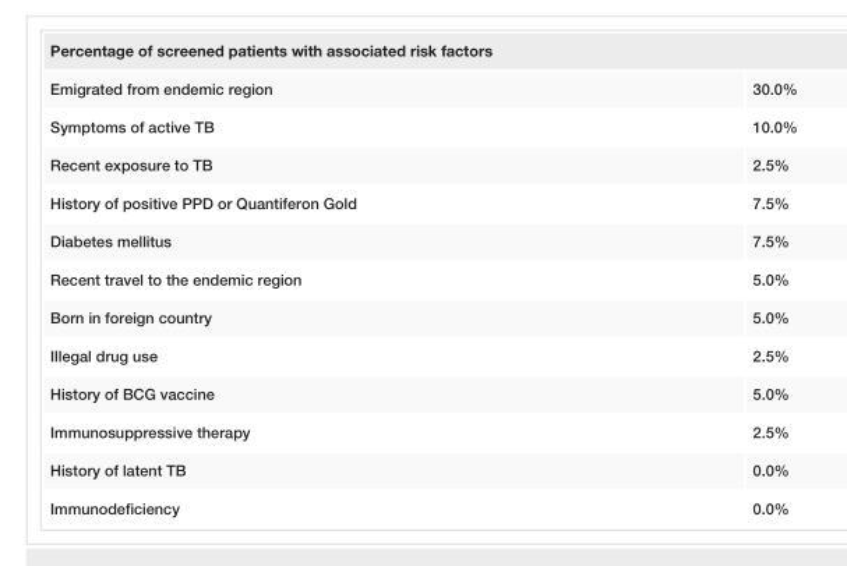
<table><tbody><tr><td colspan="2">Percentage of screened patients with associated risk factors</td></tr><tr><td>Emigrated from endemic region</td><td>30.0%</td></tr><tr><td>Symptoms of active TB</td><td>10.0%</td></tr><tr><td>Recent exposure to TB</td><td>2.5%</td></tr><tr><td>History of positive PPD or Quantiferon Gold</td><td>7.5%</td></tr><tr><td>Diabetes mellitus</td><td>7.5%</td></tr><tr><td>Recent travel to the endemic region</td><td>5.0%</td></tr><tr><td>Born in foreign country</td><td>5.0%</td></tr><tr><td>Illegal drug use</td><td>2.5%</td></tr><tr><td>History of BCG vaccine</td><td>5.0%</td></tr><tr><td>Immunosuppressive therapy</td><td>2.5%</td></tr><tr><td>History of latent TB</td><td>0.0%</td></tr><tr><td>Immunodeficiency</td><td>0.0%</td></tr></tbody></table>